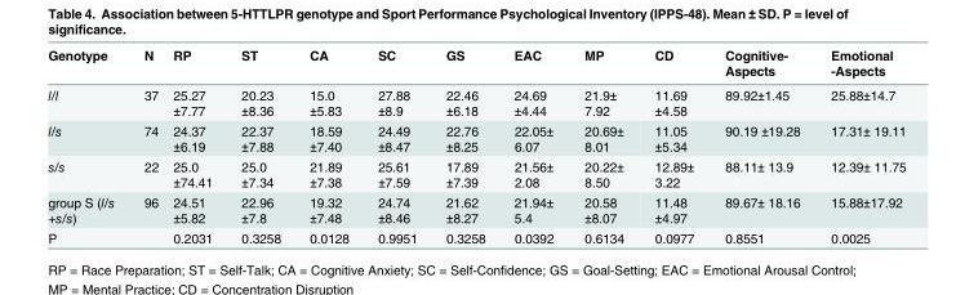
<table><thead><tr><td>Genotype</td><td>N</td><td>RP</td><td>ST</td><td>CA</td><td>SC</td><td>GS</td><td>EAC</td><td>MP</td><td>CD</td><td>Cognitive- Aspects</td><td>Emotional -Aspects</td></tr></thead><tbody><tr><td>l/l</td><td>37</td><td>25.27 ±7.77</td><td>20.23 ±8.36</td><td>15.0 ±5.83</td><td>27.88 ±8.9</td><td>22.46 ±6.18</td><td>24.69 ±4.44</td><td>21.9± 7.92</td><td>11.69 ±4.58</td><td>89.92±1.45</td><td>25.88±14.7</td></tr><tr><td>l/s</td><td>74</td><td>24.37 ±6.19</td><td>22.37 ±7.88</td><td>18.59 ±7.40</td><td>24.49 ±8.47</td><td>22.76 ±8.25</td><td>22.05± 6.07</td><td>20.69± 8.01</td><td>11.05 ±5.34</td><td>90.19 ±19.28</td><td>17.31± 19.11</td></tr><tr><td>s/s</td><td>22</td><td>25.0 ±74.41</td><td>25.0 ±7.34</td><td>21.89 ±7.38</td><td>25.61 ±7.59</td><td>17.89 ±7.39</td><td>21.56± 2.08</td><td>20.22± 8.50</td><td>12.89± 3.22</td><td>88.11± 13.9</td><td>12.39± 11.75</td></tr><tr><td>group S (l/s +s/s)</td><td>96</td><td>24.51 ±5.82</td><td>22.96 ±7.8</td><td>19.32 ±7.48</td><td>24.74 ±8.46</td><td>21.62 ±8.27</td><td>21.94± 5.4</td><td>20.58 ±8.07</td><td>11.48 ±4.97</td><td>89.67± 18.16</td><td>15.88±17.92</td></tr><tr><td>P</td><td></td><td>0.2031</td><td>0.3258</td><td>0.0128</td><td>0.9951</td><td>0.3258</td><td>0.0392</td><td>0.6134</td><td>0.0977</td><td>0.8551</td><td>0.0025</td></tr></tbody></table>